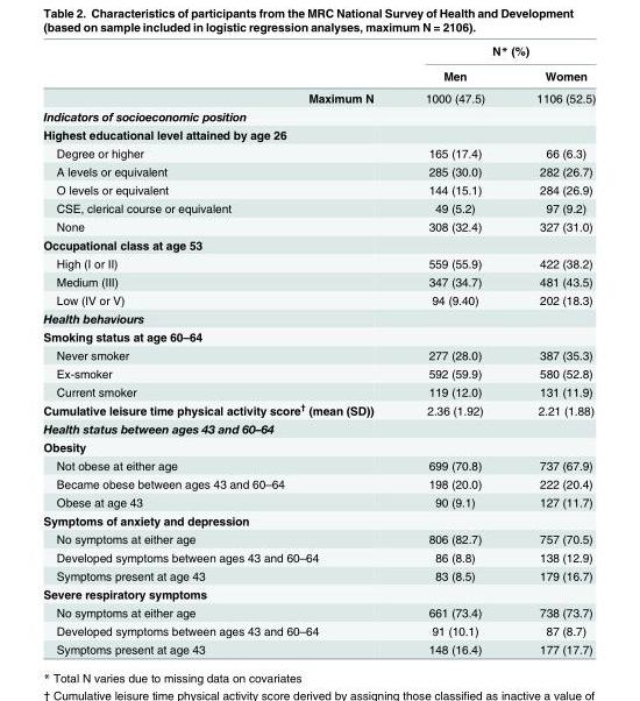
<table><thead><tr><td rowspan="2"></td><td colspan="2">N* (%)</td></tr><tr><td>Men</td><td>Women</td></tr></thead><tbody><tr><td>Maximum N</td><td>1000 (47.5)</td><td>1106 (52.5)</td></tr><tr><td colspan="3">Indicators of socioeconomic position</td></tr><tr><td colspan="3">Highest educational level attained by age 26</td></tr><tr><td>Degree or higher</td><td>165 (17.4)</td><td>66 (6.3)</td></tr><tr><td>A levels or equivalent</td><td>285 (30.0)</td><td>282 (26.7)</td></tr><tr><td>O levels or equivalent</td><td>144 (15.1)</td><td>284 (26.9)</td></tr><tr><td>CSE, clerical course or equivalent</td><td>49 (5.2)</td><td>97 (9.2)</td></tr><tr><td>None</td><td>308 (32.4)</td><td>327 (31.0)</td></tr><tr><td colspan="3">Occupational class at age 53</td></tr><tr><td>High (I or II)</td><td>559 (55.9)</td><td>422 (38.2)</td></tr><tr><td>Medium (III)</td><td>347 (34.7)</td><td>481 (43.5)</td></tr><tr><td>Low (IV or V)</td><td>94 (9.40)</td><td>202 (18.3)</td></tr><tr><td colspan="3">Health behaviours</td></tr><tr><td colspan="3">Smoking status at age 60–64</td></tr><tr><td>Never smoker</td><td>277 (28.0)</td><td>387 (35.3)</td></tr><tr><td>Ex-smoker</td><td>592 (59.9)</td><td>580 (52.8)</td></tr><tr><td>Current smoker</td><td>119 (12.0)</td><td>131 (11.9)</td></tr><tr><td>Cumulative leisure time physical activity score<sup>†</sup> (mean (SD))</td><td>2.36 (1.92)</td><td>2.21 (1.88)</td></tr><tr><td colspan="3">Health status between ages 43 and 60–64</td></tr><tr><td colspan="3">Obesity</td></tr><tr><td>Not obese at either age</td><td>699 (70.8)</td><td>737 (67.9)</td></tr><tr><td>Became obese between ages 43 and 60–64</td><td>198 (20.0)</td><td>222 (20.4)</td></tr><tr><td>Obese at age 43</td><td>90 (9.1)</td><td>127 (11.7)</td></tr><tr><td colspan="3">Symptoms of anxiety and depression</td></tr><tr><td>No symptoms at either age</td><td>806 (82.7)</td><td>757 (70.5)</td></tr><tr><td>Developed symptoms between ages 43 and 60–64</td><td>86 (8.8)</td><td>138 (12.9)</td></tr><tr><td>Symptoms present at age 43</td><td>83 (8.5)</td><td>179 (16.7)</td></tr><tr><td colspan="3">Severe respiratory symptoms</td></tr><tr><td>No symptoms at either age</td><td>661 (73.4)</td><td>738 (73.7)</td></tr><tr><td>Developed symptoms between ages 43 and 60–64</td><td>91 (10.1)</td><td>87 (8.7)</td></tr><tr><td>Symptoms present at age 43</td><td>148 (16.4)</td><td>177 (17.7)</td></tr></tbody></table>